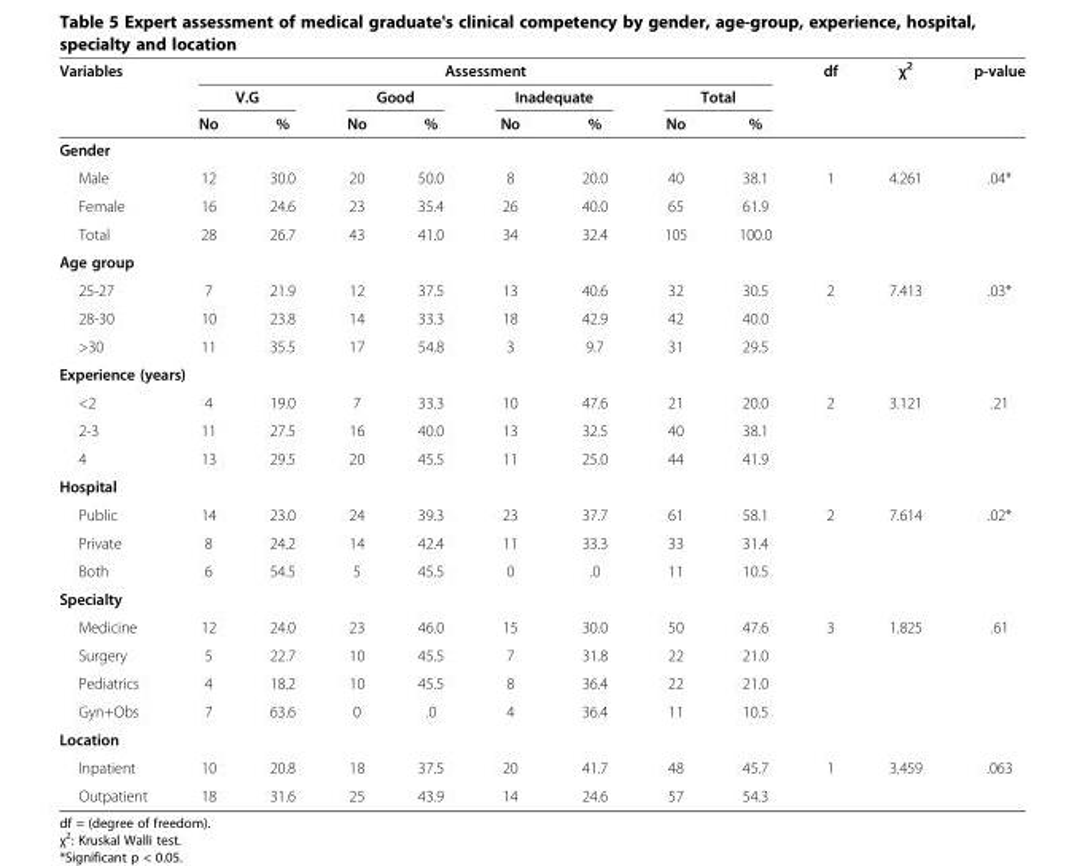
<table><thead><tr><td rowspan="3">Variables</td><td colspan="8">Assessment</td><td rowspan="3">df</td><td rowspan="3">χ<sup>2</sup></td><td rowspan="3">p-value</td></tr><tr><td colspan="2">V.G</td><td colspan="2">Good</td><td colspan="2">Inadequate</td><td colspan="2">Total</td></tr><tr><td>No</td><td>%</td><td>No</td><td>%</td><td>No</td><td>%</td><td>No</td><td>%</td></tr></thead><tbody><tr><td colspan="12">Gender</td></tr><tr><td>Male</td><td>12</td><td>30.0</td><td>20</td><td>50.0</td><td>8</td><td>20.0</td><td>40</td><td>38.1</td><td rowspan="2">1</td><td rowspan="2">4.261</td><td rowspan="2">.04*</td></tr><tr><td>Female</td><td>16</td><td>24.6</td><td>23</td><td>35.4</td><td>26</td><td>40.0</td><td>65</td><td>61.9</td></tr><tr><td>Total</td><td>28</td><td>26.7</td><td>43</td><td>41.0</td><td>34</td><td>32.4</td><td>105</td><td>100.0</td><td></td><td></td><td></td></tr><tr><td colspan="12">Age group</td></tr><tr><td>25-27</td><td>7</td><td>21.9</td><td>12</td><td>37.5</td><td>13</td><td>40.6</td><td>32</td><td>30.5</td><td rowspan="3">2</td><td rowspan="3">7.413</td><td rowspan="3">.03*</td></tr><tr><td>28-30</td><td>10</td><td>23.8</td><td>14</td><td>33.3</td><td>18</td><td>42.9</td><td>42</td><td>40.0</td></tr><tr><td>&gt;30</td><td>11</td><td>35.5</td><td>17</td><td>54.8</td><td>3</td><td>9.7</td><td>31</td><td>29.5</td></tr><tr><td colspan="12">Experience (years)</td></tr><tr><td>&lt;2</td><td>4</td><td>19.0</td><td>7</td><td>33.3</td><td>10</td><td>47.6</td><td>21</td><td>20.0</td><td rowspan="3">2</td><td rowspan="3">3.121</td><td rowspan="3">.21</td></tr><tr><td>2-3</td><td>11</td><td>27.5</td><td>16</td><td>40.0</td><td>13</td><td>32.5</td><td>40</td><td>38.1</td></tr><tr><td>4</td><td>13</td><td>29.5</td><td>20</td><td>45.5</td><td>11</td><td>25.0</td><td>44</td><td>41.9</td></tr><tr><td colspan="12">Hospital</td></tr><tr><td>Public</td><td>14</td><td>23.0</td><td>24</td><td>39.3</td><td>23</td><td>37.7</td><td>61</td><td>58.1</td><td rowspan="3">2</td><td rowspan="3">7.614</td><td rowspan="3">.02*</td></tr><tr><td>Private</td><td>8</td><td>24.2</td><td>14</td><td>42.4</td><td>11</td><td>33.3</td><td>33</td><td>31.4</td></tr><tr><td>Both</td><td>6</td><td>54.5</td><td>5</td><td>45.5</td><td>0</td><td>.0</td><td>11</td><td>10.5</td></tr><tr><td colspan="12">Specialty</td></tr><tr><td>Medicine</td><td>12</td><td>24.0</td><td>23</td><td>46.0</td><td>15</td><td>30.0</td><td>50</td><td>47.6</td><td rowspan="4">3</td><td rowspan="4">1.825</td><td rowspan="4">.61</td></tr><tr><td>Surgery</td><td>5</td><td>22.7</td><td>10</td><td>45.5</td><td>7</td><td>31.8</td><td>22</td><td>21.0</td></tr><tr><td>Pediatrics</td><td>4</td><td>18.2</td><td>10</td><td>45.5</td><td>8</td><td>36.4</td><td>22</td><td>21.0</td></tr><tr><td>Gyn+Obs</td><td>7</td><td>63.6</td><td>0</td><td>.0</td><td>4</td><td>36.4</td><td>11</td><td>10.5</td></tr><tr><td colspan="12">Location</td></tr><tr><td>Inpatient</td><td>10</td><td>20.8</td><td>18</td><td>37.5</td><td>20</td><td>41.7</td><td>48</td><td>45.7</td><td rowspan="2">1</td><td rowspan="2">3.459</td><td rowspan="2">.063</td></tr><tr><td>Outpatient</td><td>18</td><td>31.6</td><td>25</td><td>43.9</td><td>14</td><td>24.6</td><td>57</td><td>54.3</td></tr></tbody></table>